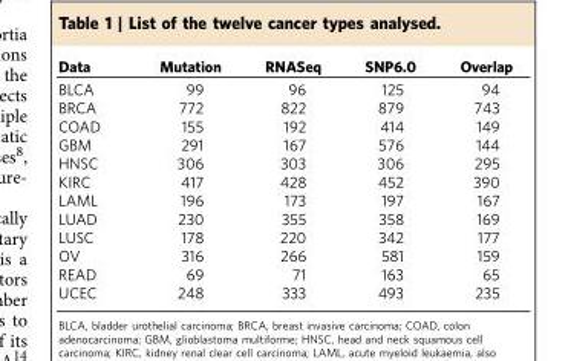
<table><thead><tr><td>Data</td><td>Mutation</td><td>RNASeq</td><td>SNP6.0</td><td>Overlap</td></tr></thead><tbody><tr><td>BLCA</td><td>99</td><td>96</td><td>125</td><td>94</td></tr><tr><td>BRCA</td><td>772</td><td>822</td><td>879</td><td>743</td></tr><tr><td>COAD</td><td>155</td><td>192</td><td>414</td><td>149</td></tr><tr><td>GBM</td><td>291</td><td>167</td><td>576</td><td>144</td></tr><tr><td>HNSC</td><td>306</td><td>303</td><td>306</td><td>295</td></tr><tr><td>KIRC</td><td>417</td><td>428</td><td>452</td><td>390</td></tr><tr><td>LAML</td><td>196</td><td>173</td><td>197</td><td>167</td></tr><tr><td>LUAD</td><td>230</td><td>355</td><td>358</td><td>169</td></tr><tr><td>LUSC</td><td>178</td><td>220</td><td>342</td><td>177</td></tr><tr><td>OV</td><td>316</td><td>266</td><td>581</td><td>159</td></tr><tr><td>READ</td><td>69</td><td>71</td><td>163</td><td>65</td></tr><tr><td>UCEC</td><td>248</td><td>333</td><td>493</td><td>235</td></tr></tbody></table>